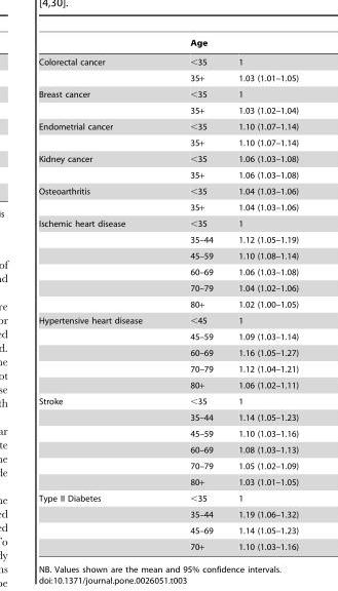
<table><thead><tr><td></td><td>Age</td><td></td></tr></thead><tbody><tr><td rowspan="2">Colorectal cancer</td><td>&lt;35</td><td>1</td></tr><tr><td>35+</td><td>1.03 (1.01–1.05)</td></tr><tr><td rowspan="2">Breast cancer</td><td>&lt;35</td><td>1</td></tr><tr><td>35+</td><td>1.03 (1.02–1.04)</td></tr><tr><td rowspan="2">Endometrial cancer</td><td>&lt;35</td><td>1.10 (1.07–1.14)</td></tr><tr><td>35+</td><td>1.10 (1.07–1.14)</td></tr><tr><td rowspan="2">Kidney cancer</td><td>&lt;35</td><td>1.06 (1.03–1.08)</td></tr><tr><td>35+</td><td>1.06 (1.03–1.08)</td></tr><tr><td rowspan="2">Osteoarthritis</td><td>&lt;35</td><td>1.04 (1.03–1.06)</td></tr><tr><td>35+</td><td>1.04 (1.03–1.06)</td></tr><tr><td rowspan="6">Ischemic heart disease</td><td>&lt;35</td><td>1</td></tr><tr><td>35–44</td><td>1.12 (1.05–1.19)</td></tr><tr><td>45–59</td><td>1.10 (1.08–1.14)</td></tr><tr><td>60–69</td><td>1.06 (1.03–1.08)</td></tr><tr><td>70–79</td><td>1.04 (1.02–1.06)</td></tr><tr><td>80+</td><td>1.02 (1.00–1.05)</td></tr><tr><td rowspan="5">Hypertensive heart disease</td><td>&lt;45</td><td>1</td></tr><tr><td>45–59</td><td>1.09 (1.03–1.14)</td></tr><tr><td>60–69</td><td>1.16 (1.05–1.27)</td></tr><tr><td>70–79</td><td>1.12 (1.04–1.21)</td></tr><tr><td>80+</td><td>1.06 (1.02–1.11)</td></tr><tr><td rowspan="6">Stroke</td><td>&lt;35</td><td>1</td></tr><tr><td>35–44</td><td>1.14 (1.05–1.23)</td></tr><tr><td>45–59</td><td>1.10 (1.03–1.16)</td></tr><tr><td>60–69</td><td>1.08 (1.03–1.13)</td></tr><tr><td>70–79</td><td>1.05 (1.02–1.09)</td></tr><tr><td>80+</td><td>1.03 (1.01–1.05)</td></tr><tr><td rowspan="4">Type II Diabetes</td><td>&lt;35</td><td>1</td></tr><tr><td>35–44</td><td>1.19 (1.06–1.32)</td></tr><tr><td>45–69</td><td>1.14 (1.05–1.23)</td></tr><tr><td>70+</td><td>1.10 (1.03–1.16)</td></tr></tbody></table>